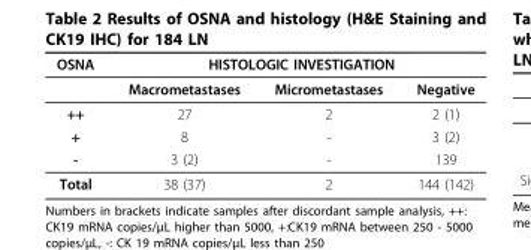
<table><thead><tr><td rowspan="2">OSNA</td><td colspan="3">HISTOLOGIC INVESTIGATION</td></tr><tr><td>Macrometastases</td><td>Micrometastases</td><td>Negative</td></tr></thead><tbody><tr><td>++</td><td>27</td><td>2</td><td>2 (1)</td></tr><tr><td>+</td><td>8</td><td>-</td><td>3 (2)</td></tr><tr><td>-</td><td>3 (2)</td><td>-</td><td>139</td></tr><tr><td>Total</td><td>38 (37)</td><td>2</td><td>144 (142)</td></tr></tbody></table>